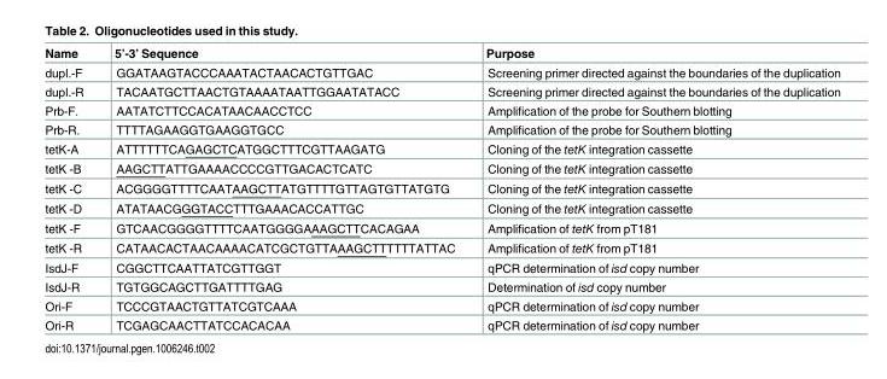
<table><thead><tr><td>Name</td><td>5’-3’ Sequence</td><td>Purpose</td></tr></thead><tbody><tr><td>dupl.-F</td><td>GGATAAGTACCCAAATACTAACACTGTTGAC</td><td>Screening primer directed against the boundaries of the duplication</td></tr><tr><td>dupl.-R</td><td>TACAATGCTTAACTGTAAAATAATTGGAATATACC</td><td>Screening primer directed against the boundaries of the duplication</td></tr><tr><td>Prb-F.</td><td>AATATCTTCCACATAACAACCTCC</td><td>Amplification of the probe for Southern blotting</td></tr><tr><td>Prb-R.</td><td>TTTTAGAAGGTGAAGGTGCC</td><td>Amplification of the probe for Southern blotting</td></tr><tr><td>tetK-A</td><td>ATTTTTTCAGAGCTCATGGCTTTCGTTAAGATG</td><td>Cloning of the tetK integration cassette</td></tr><tr><td>tetK -B</td><td>AAGCTTATTGAAAACCCCGTTGACACTCATC</td><td>Cloning of the tetK integration cassette</td></tr><tr><td>tetK -C</td><td>ACGGGGTTTTCAATAAGCTTATGTTTTGTTAGTGTTATGTG</td><td>Cloning of the tetK integration cassette</td></tr><tr><td>tetK -D</td><td>ATATAACGGGTACCTTTGAAACACCATTGC</td><td>Cloning of the tetK integration cassette</td></tr><tr><td>tetK -F</td><td>GTCAACGGGGTTTTCAATGGGGAAAGCTTCACAGAA</td><td>Amplification of tetK from pT181</td></tr><tr><td>tetK -R</td><td>CATAACACTAACAAAACATCGCTGTTAAAGCTTTTTTATTAC</td><td>Amplification of tetK from pT181</td></tr><tr><td>IsdJ-F</td><td>CGGCTTCAATTATCGTTGGT</td><td>qPCR determination of isd copy number</td></tr><tr><td>IsdJ-R</td><td>TGTGGCAGCTTGATTTTGAG</td><td>Determination of isd copy number</td></tr><tr><td>Ori-F</td><td>TCCCGTAACTGTTATCGTCAAA</td><td>qPCR determination of isd copy number</td></tr><tr><td>Ori-R</td><td>TCGAGCAACTTATCCACACAA</td><td>qPCR determination of isd copy number</td></tr></tbody></table>